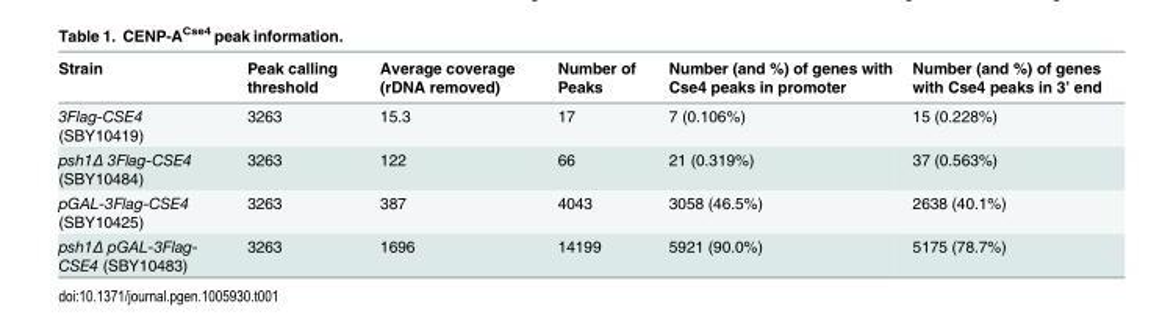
<table><thead><tr><td>Strain</td><td>Peak calling threshold</td><td>Average coverage (rDNA removed)</td><td>Number of Peaks</td><td>Number (and %) of genes with Cse4 peaks in promoter</td><td>Number (and %) of genes with Cse4 peaks in 3’ end</td></tr></thead><tbody><tr><td>3Flag-CSE4 (SBY10419)</td><td>3263</td><td>15.3</td><td>17</td><td>7 (0.106%)</td><td>15 (0.228%)</td></tr><tr><td>psh1Δ 3Flag-CSE4 (SBY10484)</td><td>3263</td><td>122</td><td>66</td><td>21 (0.319%)</td><td>37 (0.563%)</td></tr><tr><td>pGAL-3Flag-CSE4 (SBY10425)</td><td>3263</td><td>387</td><td>4043</td><td>3058 (46.5%)</td><td>2638 (40.1%)</td></tr><tr><td>psh1Δ pGAL-3Flag- CSE4 (SBY10483)</td><td>3263</td><td>1696</td><td>14199</td><td>5921 (90.0%)</td><td>5175 (78.7%)</td></tr></tbody></table>